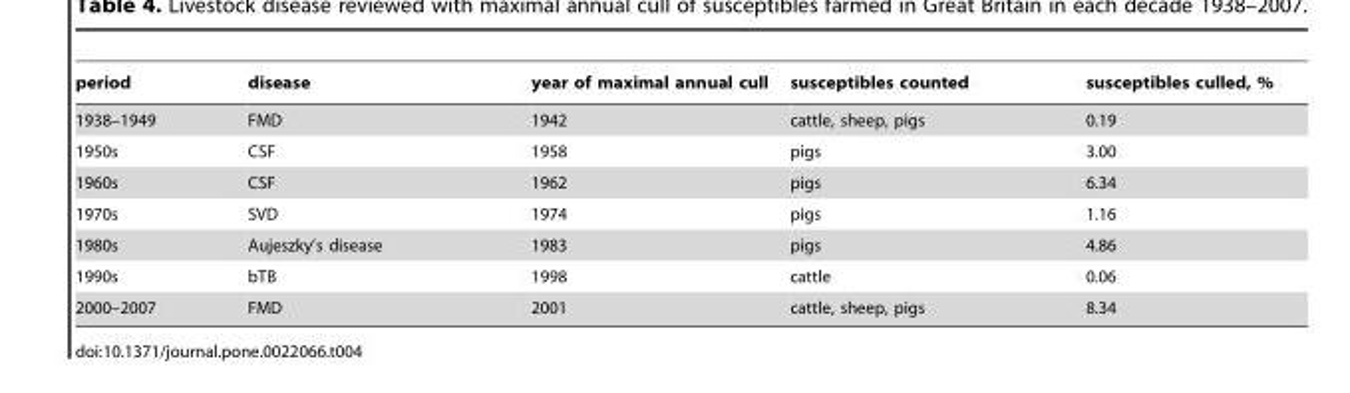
<table><thead><tr><td>period</td><td>disease</td><td>year of maximal annual cull</td><td>susceptibles counted</td><td>susceptibles culled, %</td></tr></thead><tbody><tr><td>1938–1949</td><td>FMD</td><td>1942</td><td>cattle, sheep, pigs</td><td>0.19</td></tr><tr><td>1950s</td><td>CSF</td><td>1958</td><td>pigs</td><td>3.00</td></tr><tr><td>1960s</td><td>CSF</td><td>1962</td><td>pigs</td><td>6.34</td></tr><tr><td>1970s</td><td>SVD</td><td>1974</td><td>pigs</td><td>1.16</td></tr><tr><td>1980s</td><td>Aujeszky’s disease</td><td>1983</td><td>pigs</td><td>4.86</td></tr><tr><td>1990s</td><td>bTB</td><td>1998</td><td>cattle</td><td>0.06</td></tr><tr><td>2000–2007</td><td>FMD</td><td>2001</td><td>cattle, sheep, pigs</td><td>8.34</td></tr></tbody></table>